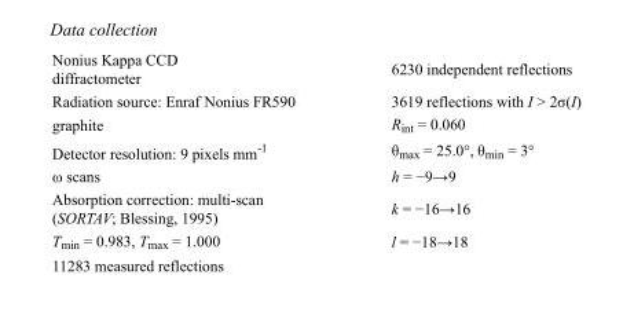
<table><tbody><tr><td>Nonius Kappa CCD diffractometer</td><td>6230 independent reflections</td></tr><tr><td>Radiation source: Enraf Nonius FR590</td><td>3619 reflections with I &gt; 2σ(I)</td></tr><tr><td>graphite</td><td>R<sub>int</sub> = 0.060</td></tr><tr><td>Detector resolution: 9 pixels mm<sup>-1</sup></td><td>θ<sub>max</sub> = 25.0°, θ<sub>min</sub> = 3°</td></tr><tr><td>ω scans</td><td>h = −9→9</td></tr><tr><td>Absorption correction: multi-scan (SORTAV; Blessing, 1995)</td><td>k = −16→16</td></tr><tr><td>T<sub>min</sub> = 0.983, T<sub>max</sub> = 1.000</td><td>l = −18→18</td></tr><tr><td>11283 measured reflections</td><td></td></tr></tbody></table>